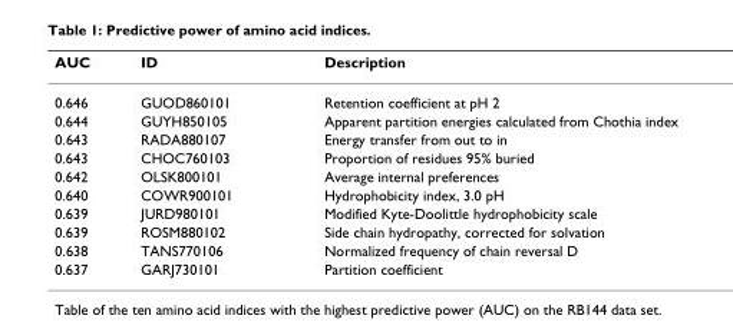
<table><thead><tr><td>AUC</td><td>ID</td><td>Description</td></tr></thead><tbody><tr><td>0.646</td><td>GUOD860101</td><td>Retention coefficient at pH 2</td></tr><tr><td>0.644</td><td>GUYH850105</td><td>Apparent partition energies calculated from Chothia index</td></tr><tr><td>0.643</td><td>RADA880107</td><td>Energy transfer from out to in</td></tr><tr><td>0.643</td><td>CHOC760103</td><td>Proportion of residues 95% buried</td></tr><tr><td>0.642</td><td>OLSK800101</td><td>Average internal preferences</td></tr><tr><td>0.640</td><td>COWR900101</td><td>Hydrophobicity index, 3.0 pH</td></tr><tr><td>0.639</td><td>JURD980101</td><td>Modified Kyte-Doolittle hydrophobicity scale</td></tr><tr><td>0.639</td><td>ROSM880102</td><td>Side chain hydropathy, corrected for solvation</td></tr><tr><td>0.638</td><td>TANS770106</td><td>Normalized frequency of chain reversal D</td></tr><tr><td>0.637</td><td>GARJ730101</td><td>Partition coefficient</td></tr></tbody></table>